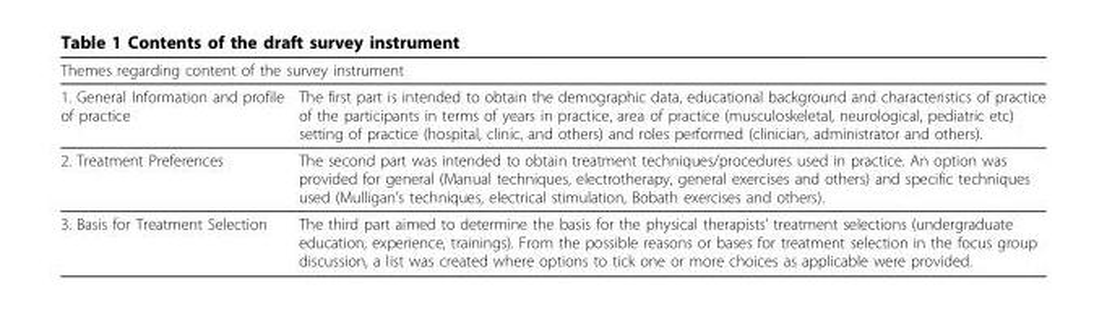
<table><thead><tr><td colspan="2">Themes regarding content of the survey instrument</td></tr><tr><td>1. General Information and profile of practice</td><td>The first part is intended to obtain the demographic data, educational background and characteristics of practice of the participants in terms of years in practice, area of practice (musculoskeletal, neurological, pediatric etc) setting of practice (hospital, clinic, and others) and roles performed (clinician, administrator and others).</td></tr></thead><tbody><tr><td>2. Treatment Preferences</td><td>The second part was intended to obtain treatment techniques/procedures used in practice. An option was provided for general (Manual techniques, electrotherapy, general exercises and others) and specific techniques used (Mulligan’s techniques, electrical stimulation, Bobath exercises and others).</td></tr><tr><td>3. Basis for Treatment Selection</td><td>The third part aimed to determine the basis for the physical therapists’ treatment selections (undergraduate education, experience, trainings). From the possible reasons or bases for treatment selection in the focus group discussion, a list was created where options to tick one or more choices as applicable were provided.</td></tr></tbody></table>